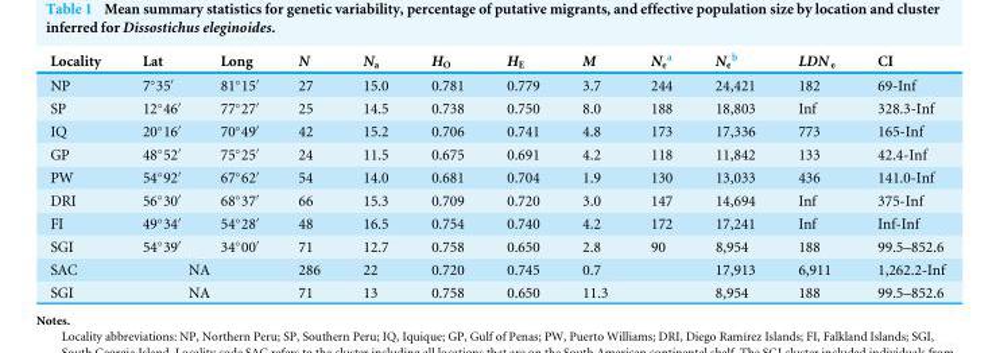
<table><thead><tr><td>Locality</td><td>Lat</td><td>Long</td><td>N</td><td>N<sub>a</sub></td><td>H<sub>O</sub></td><td>H<sub>E</sub></td><td>M</td><td>N<sub>e</sub><sup>a</sup></td><td>N<sub>e</sub><sup>b</sup></td><td>LDN <sub>e</sub></td><td>CI</td></tr></thead><tbody><tr><td>NP</td><td>7◦35′</td><td>81◦15′</td><td>27</td><td>15.0</td><td>0.781</td><td>0.779</td><td>3.7</td><td>244</td><td>24,421</td><td>182</td><td>69-Inf</td></tr><tr><td>SP</td><td>12◦46′</td><td>77◦27′</td><td>25</td><td>14.5</td><td>0.738</td><td>0.750</td><td>8.0</td><td>188</td><td>18,803</td><td>Inf</td><td>328.3-Inf</td></tr><tr><td>IQ</td><td>20◦16′</td><td>70◦49′</td><td>42</td><td>15.2</td><td>0.706</td><td>0.741</td><td>4.8</td><td>173</td><td>17,336</td><td>773</td><td>165-Inf</td></tr><tr><td>GP</td><td>48◦52′</td><td>75◦25′</td><td>24</td><td>11.5</td><td>0.675</td><td>0.691</td><td>4.2</td><td>118</td><td>11,842</td><td>133</td><td>42.4-Inf</td></tr><tr><td>PW</td><td>54◦92′</td><td>67◦62′</td><td>54</td><td>14.0</td><td>0.681</td><td>0.704</td><td>1.9</td><td>130</td><td>13,033</td><td>436</td><td>141.0-Inf</td></tr><tr><td>DRI</td><td>56◦30′</td><td>68◦37′</td><td>66</td><td>15.3</td><td>0.709</td><td>0.720</td><td>3.0</td><td>147</td><td>14,694</td><td>Inf</td><td>375-Inf</td></tr><tr><td>FI</td><td>49◦34′</td><td>54◦28′</td><td>48</td><td>16.5</td><td>0.754</td><td>0.740</td><td>4.2</td><td>172</td><td>17,241</td><td>Inf</td><td>Inf-Inf</td></tr><tr><td>SGI</td><td>54◦39′</td><td>34◦00′</td><td>71</td><td>12.7</td><td>0.758</td><td>0.650</td><td>2.8</td><td>90</td><td>8,954</td><td>188</td><td>99.5–852.6</td></tr><tr><td>SAC</td><td colspan="2">NA</td><td>286</td><td>22</td><td>0.720</td><td>0.745</td><td>0.7</td><td></td><td>17,913</td><td>6,911</td><td>1,262.2-Inf</td></tr><tr><td>SGI</td><td colspan="2">NA</td><td>71</td><td>13</td><td>0.758</td><td>0.650</td><td>11.3</td><td></td><td>8,954</td><td>188</td><td>99.5–852.6</td></tr></tbody></table>